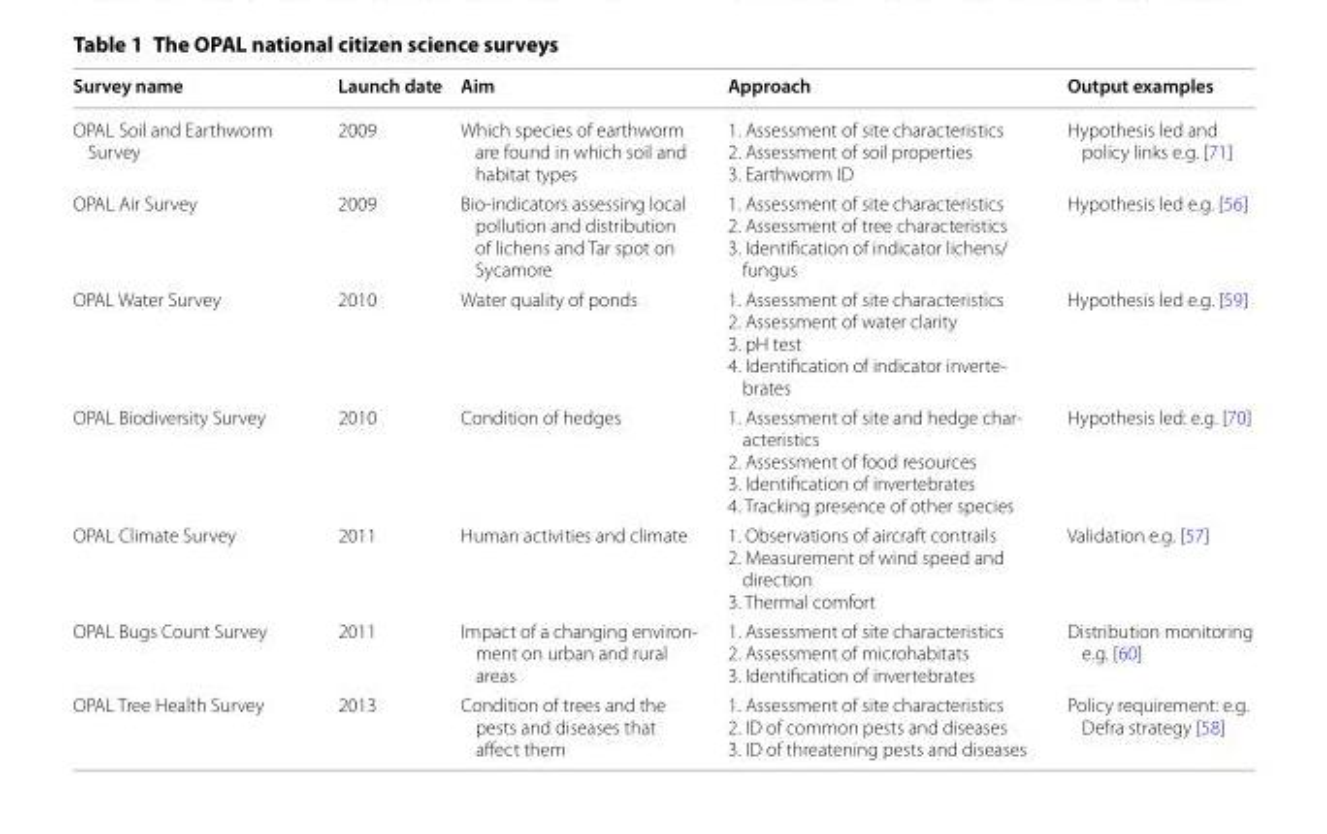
<table><thead><tr><td>Survey name</td><td>Launch date</td><td>Aim</td><td>Approach</td><td>Output examples</td></tr></thead><tbody><tr><td>OPAL Soil and Earthworm Survey</td><td>2009</td><td>Which species of earthworm are found in which soil and habitat types</td><td>1. Assessment of site characteristics 2. Assessment of soil properties 3. Earthworm ID</td><td>Hypothesis led and policy links e.g. [71]</td></tr><tr><td>OPAL Air Survey</td><td>2009</td><td>Bio‑indicators assessing local pollution and distribution of lichens and Tar spot on Sycamore</td><td>1. Assessment of site characteristics 2. Assessment of tree characteristics 3. Identification of indicator lichens/ fungus</td><td>Hypothesis led e.g. [56]</td></tr><tr><td>OPAL Water Survey</td><td>2010</td><td>Water quality of ponds</td><td>1. Assessment of site characteristics 2. Assessment of water clarity 3. pH test 4. Identification of indicator inverte‑ brates</td><td>Hypothesis led e.g. [59]</td></tr><tr><td>OPAL Biodiversity Survey</td><td>2010</td><td>Condition of hedges</td><td>1. Assessment of site and hedge char‑ acteristics 2. Assessment of food resources 3. Identification of invertebrates 4. Tracking presence of other species</td><td>Hypothesis led: e.g. [70]</td></tr><tr><td>OPAL Climate Survey</td><td>2011</td><td>Human activities and climate</td><td>1. Observations of aircraft contrails 2. Measurement of wind speed and direction 3. Thermal comfort</td><td>Validation e.g. [57]</td></tr><tr><td>OPAL Bugs Count Survey</td><td>2011</td><td>Impact of a changing environ‑ ment on urban and rural areas</td><td>1. Assessment of site characteristics 2. Assessment of microhabitats 3. Identification of invertebrates</td><td>Distribution monitoring e.g. [60]</td></tr><tr><td>OPAL Tree Health Survey</td><td>2013</td><td>Condition of trees and the pests and diseases that affect them</td><td>1. Assessment of site characteristics 2. ID of common pests and diseases 3. ID of threatening pests and diseases</td><td>Policy requirement: e.g. Defra strategy [58]</td></tr></tbody></table>